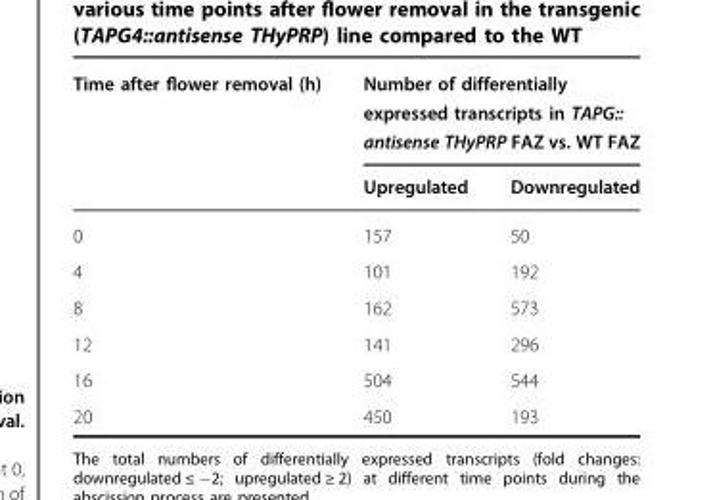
<table><thead><tr><td rowspan="2">Time after flower removal (h)</td><td colspan="2">Number of differentially expressed transcripts in TAPG:: antisense THyPRP FAZ vs. WT FAZ</td></tr><tr><td>Upregulated</td><td>Downregulated</td></tr></thead><tbody><tr><td>0</td><td>157</td><td>50</td></tr><tr><td>4</td><td>101</td><td>192</td></tr><tr><td>8</td><td>162</td><td>573</td></tr><tr><td>12</td><td>141</td><td>296</td></tr><tr><td>16</td><td>504</td><td>544</td></tr><tr><td>20</td><td>450</td><td>193</td></tr></tbody></table>